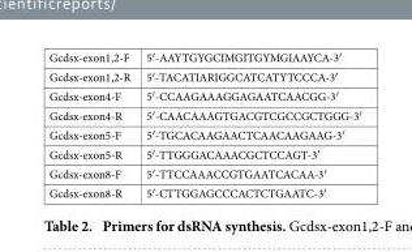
<table><tbody><tr><td>Gcdsx-exon1,2-F</td><td>5′ -AAYTGYGCIMGITGYMGIAAYCA-3′</td></tr><tr><td>Gcdsx-exon1,2-R</td><td>5′ -TACATIARIGGCATCATYTCCCA-3′</td></tr><tr><td>Gcdsx-exon4-F</td><td>5′ -CCAAGAAAGGAGAATCAACGG-3′</td></tr><tr><td>Gcdsx-exon4-R</td><td>5′ -CAACAAAGTGACGTCGCCGCTGGG-3′</td></tr><tr><td>Gcdsx-exon5-F</td><td>5′ -TGCACAAGAACTCAACAAGAAG-3′</td></tr><tr><td>Gcdsx-exon5-R</td><td>5′ -TTGGGACAAACGCTCCAGT-3′</td></tr><tr><td>Gcdsx-exon8-F</td><td>5′ -TTCCAAACCGTGAATCACAA-3′</td></tr><tr><td>Gcdsx-exon8-R</td><td>5′ -CTTGGAGCCCACTCTGAATC-3′</td></tr></tbody></table>